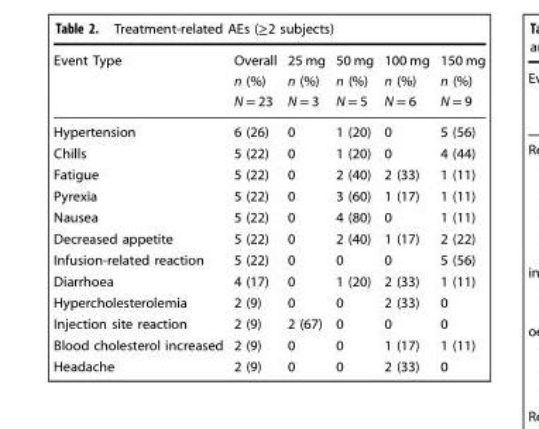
<table><thead><tr><td rowspan="3">Event Type</td><td rowspan="3">Overall n (%) N = 23</td><td rowspan="3">25 mg n (%) N = 3</td><td rowspan="3">50 mg n (%) N = 5</td><td rowspan="3">100 mg n (%) N = 6</td><td rowspan="3">150 mg n (%) N = 9</td></tr><tr></tr><tr></tr></thead><tbody><tr><td>Hypertension</td><td>6 (26)</td><td>0</td><td>1 (20)</td><td>0</td><td>5 (56)</td></tr><tr><td>Chills</td><td>5 (22)</td><td>0</td><td>1 (20)</td><td>0</td><td>4 (44)</td></tr><tr><td>Fatigue</td><td>5 (22)</td><td>0</td><td>2 (40)</td><td>2 (33)</td><td>1 (11)</td></tr><tr><td>Pyrexia</td><td>5 (22)</td><td>0</td><td>3 (60)</td><td>1 (17)</td><td>1 (11)</td></tr><tr><td>Nausea</td><td>5 (22)</td><td>0</td><td>4 (80)</td><td>0</td><td>1 (11)</td></tr><tr><td>Decreased appetite</td><td>5 (22)</td><td>0</td><td>2 (40)</td><td>1 (17)</td><td>2 (22)</td></tr><tr><td>Infusion-related reaction</td><td>5 (22)</td><td>0</td><td>0</td><td>0</td><td>5 (56)</td></tr><tr><td>Diarrhoea</td><td>4 (17)</td><td>0</td><td>1 (20)</td><td>2 (33)</td><td>1 (11)</td></tr><tr><td>Hypercholesterolemia</td><td>2 (9)</td><td>0</td><td>0</td><td>2 (33)</td><td>0</td></tr><tr><td>Injection site reaction</td><td>2 (9)</td><td>2 (67)</td><td>0</td><td>0</td><td>0</td></tr><tr><td>Blood cholesterol increased</td><td>2 (9)</td><td>0</td><td>0</td><td>1 (17)</td><td>1 (11)</td></tr><tr><td>Headache</td><td>2 (9)</td><td>0</td><td>0</td><td>2 (33)</td><td>0</td></tr></tbody></table>